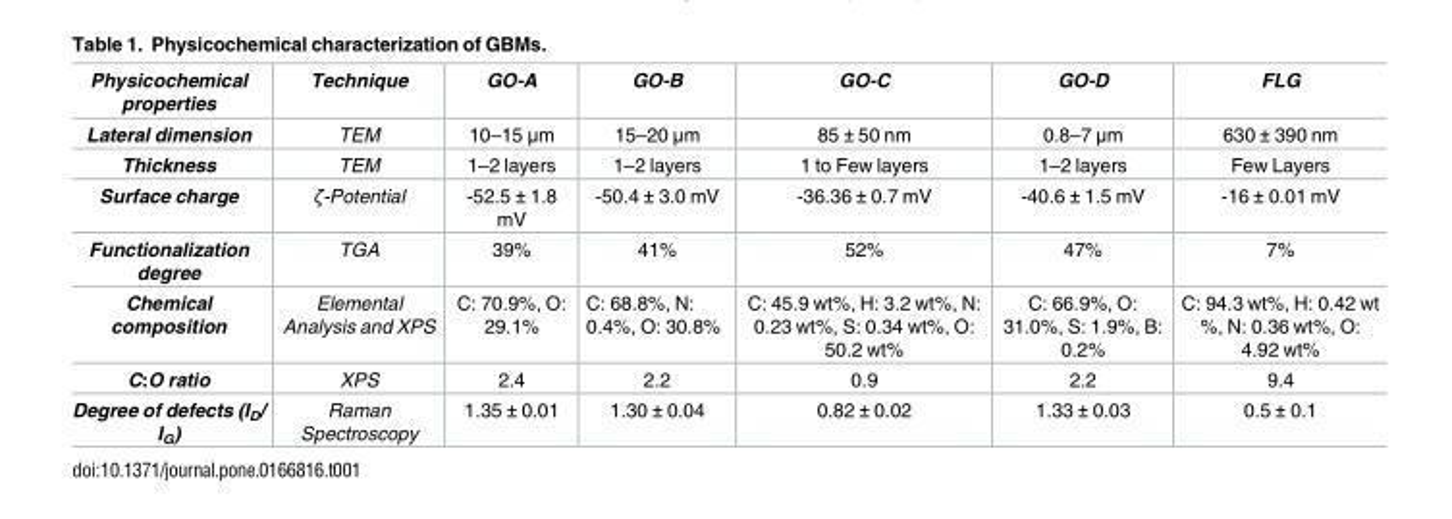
<table><thead><tr><td>Physicochemical properties</td><td>Technique</td><td>GO-A</td><td>GO-B</td><td>GO-C</td><td>GO-D</td><td>FLG</td></tr></thead><tbody><tr><td>Lateral dimension</td><td>TEM</td><td>10–15 μm</td><td>15–20 μm</td><td>85 ± 50 nm</td><td>0.8–7 μm</td><td>630 ± 390 nm</td></tr><tr><td>Thickness</td><td>TEM</td><td>1–2 layers</td><td>1–2 layers</td><td>1 to Few layers</td><td>1–2 layers</td><td>Few Layers</td></tr><tr><td>Surface charge</td><td>ζ-Potential</td><td>-52.5 ± 1.8 mV</td><td>-50.4 ± 3.0 mV</td><td>-36.36 ± 0.7 mV</td><td>-40.6 ± 1.5 mV</td><td>-16 ± 0.01 mV</td></tr><tr><td>Functionalization degree</td><td>TGA</td><td>39%</td><td>41%</td><td>52%</td><td>47%</td><td>7%</td></tr><tr><td>Chemical composition</td><td>Elemental Analysis and XPS</td><td>C: 70.9%, O: 29.1%</td><td>C: 68.8%, N: 0.4%, O: 30.8%</td><td>C: 45.9 wt%, H: 3.2 wt%, N: 0.23 wt%, S: 0.34 wt%, O: 50.2 wt%</td><td>C: 66.9%, O: 31.0%, S: 1.9%, B: 0.2%</td><td>C: 94.3 wt%, H: 0.42 wt %, N: 0.36 wt%, O: 4.92 wt%</td></tr><tr><td>C:O ratio</td><td>XPS</td><td>2.4</td><td>2.2</td><td>0.9</td><td>2.2</td><td>9.4</td></tr><tr><td>Degree of defects (I<sub>D</sub>/ I<sub>G</sub>)</td><td>Raman Spectroscopy</td><td>1.35 ± 0.01</td><td>1.30 ± 0.04</td><td>0.82 ± 0.02</td><td>1.33 ± 0.03</td><td>0.5 ± 0.1</td></tr></tbody></table>